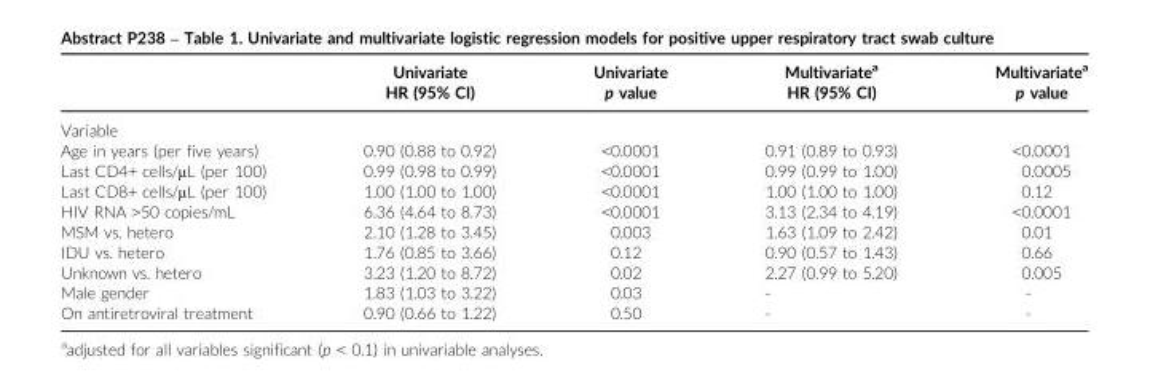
<table><thead><tr><td rowspan="2"></td><td rowspan="2">Univariate HR (95% CI)</td><td rowspan="2">Univariate p value</td><td rowspan="2">Multivariate<sup>a</sup> HR (95% CI)</td><td rowspan="2">Multivariate<sup>a</sup> p value</td></tr><tr></tr></thead><tbody><tr><td colspan="5">Variable</td></tr><tr><td>Age in years (per five years)</td><td>0.90 (0.88 to 0.92)</td><td>&lt;0.0001</td><td>0.91 (0.89 to 0.93)</td><td>&lt;0.0001</td></tr><tr><td>Last CD4+ cells/μL (per 100)</td><td>0.99 (0.98 to 0.99)</td><td>&lt;0.0001</td><td>0.99 (0.99 to 1.00)</td><td>0.0005</td></tr><tr><td>Last CD8+ cells/μL (per 100)</td><td>1.00 (1.00 to 1.00)</td><td>&lt;0.0001</td><td>1.00 (1.00 to 1.00)</td><td>0.12</td></tr><tr><td>HIV RNA &gt;50 copies/mL</td><td>6.36 (4.64 to 8.73)</td><td>&lt;0.0001</td><td>3.13 (2.34 to 4.19)</td><td>&lt;0.0001</td></tr><tr><td>MSM vs. hetero</td><td>2.10 (1.28 to 3.45)</td><td>0.003</td><td>1.63 (1.09 to 2.42)</td><td>0.01</td></tr><tr><td>IDU vs. hetero</td><td>1.76 (0.85 to 3.66)</td><td>0.12</td><td>0.90 (0.57 to 1.43)</td><td>0.66</td></tr><tr><td>Unknown vs. hetero</td><td>3.23 (1.20 to 8.72)</td><td>0.02</td><td>2.27 (0.99 to 5.20)</td><td>0.005</td></tr><tr><td>Male gender</td><td>1.83 (1.03 to 3.22)</td><td>0.03</td><td>-</td><td>-</td></tr><tr><td>On antiretroviral treatment</td><td>0.90 (0.66 to 1.22)</td><td>0.50</td><td>-</td><td>-</td></tr></tbody></table>